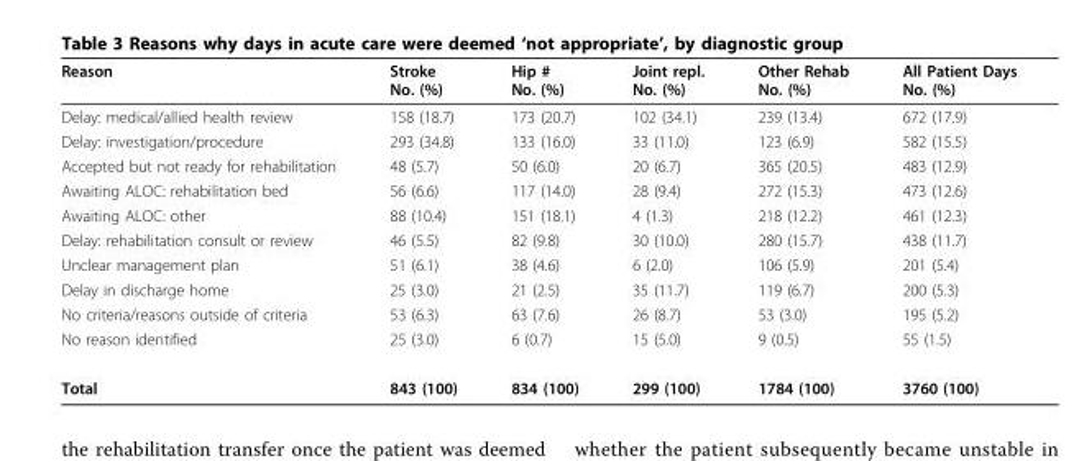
<table><thead><tr><td>Reason</td><td>Stroke No. (%)</td><td>Hip # No. (%)</td><td>Joint repl. No. (%)</td><td>Other Rehab No. (%)</td><td>All Patient Days No. (%)</td></tr></thead><tbody><tr><td>Delay: medical/allied health review</td><td>158 (18.7)</td><td>173 (20.7)</td><td>102 (34.1)</td><td>239 (13.4)</td><td>672 (17.9)</td></tr><tr><td>Delay: investigation/procedure</td><td>293 (34.8)</td><td>133 (16.0)</td><td>33 (11.0)</td><td>123 (6.9)</td><td>582 (15.5)</td></tr><tr><td>Accepted but not ready for rehabilitation</td><td>48 (5.7)</td><td>50 (6.0)</td><td>20 (6.7)</td><td>365 (20.5)</td><td>483 (12.9)</td></tr><tr><td>Awaiting ALOC: rehabilitation bed</td><td>56 (6.6)</td><td>117 (14.0)</td><td>28 (9.4)</td><td>272 (15.3)</td><td>473 (12.6)</td></tr><tr><td>Awaiting ALOC: other</td><td>88 (10.4)</td><td>151 (18.1)</td><td>4 (1.3)</td><td>218 (12.2)</td><td>461 (12.3)</td></tr><tr><td>Delay: rehabilitation consult or review</td><td>46 (5.5)</td><td>82 (9.8)</td><td>30 (10.0)</td><td>280 (15.7)</td><td>438 (11.7)</td></tr><tr><td>Unclear management plan</td><td>51 (6.1)</td><td>38 (4.6)</td><td>6 (2.0)</td><td>106 (5.9)</td><td>201 (5.4)</td></tr><tr><td>Delay in discharge home</td><td>25 (3.0)</td><td>21 (2.5)</td><td>35 (11.7)</td><td>119 (6.7)</td><td>200 (5.3)</td></tr><tr><td>No criteria/reasons outside of criteria</td><td>53 (6.3)</td><td>63 (7.6)</td><td>26 (8.7)</td><td>53 (3.0)</td><td>195 (5.2)</td></tr><tr><td>No reason identified</td><td>25 (3.0)</td><td>6 (0.7)</td><td>15 (5.0)</td><td>9 (0.5)</td><td>55 (1.5)</td></tr><tr><td>Total</td><td>843 (100)</td><td>834 (100)</td><td>299 (100)</td><td>1784 (100)</td><td>3760 (100)</td></tr></tbody></table>